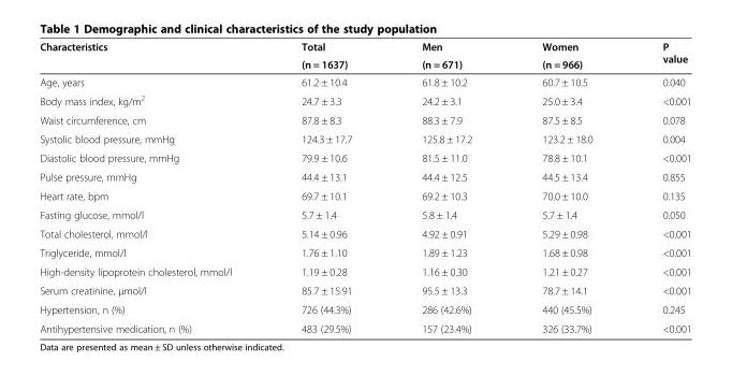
<table><thead><tr><td rowspan="2">Characteristics</td><td rowspan="2">Total (n = 1637)</td><td rowspan="2">Men (n = 671)</td><td rowspan="2">Women (n = 966)</td><td rowspan="2">P value</td></tr><tr></tr></thead><tbody><tr><td>Age, years</td><td>61.2 ± 10.4</td><td>61.8 ± 10.2</td><td>60.7 ± 10.5</td><td>0.040</td></tr><tr><td>Body mass index, kg/m<sup>2</sup></td><td>24.7 ± 3.3</td><td>24.2 ± 3.1</td><td>25.0 ± 3.4</td><td>&lt;0.001</td></tr><tr><td>Waist circumference, cm</td><td>87.8 ± 8.3</td><td>88.3 ± 7.9</td><td>87.5 ± 8.5</td><td>0.078</td></tr><tr><td>Systolic blood pressure, mmHg</td><td>124.3 ± 17.7</td><td>125.8 ± 17.2</td><td>123.2 ± 18.0</td><td>0.004</td></tr><tr><td>Diastolic blood pressure, mmHg</td><td>79.9 ± 10.6</td><td>81.5 ± 11.0</td><td>78.8 ± 10.1</td><td>&lt;0.001</td></tr><tr><td>Pulse pressure, mmHg</td><td>44.4 ± 13.1</td><td>44.4 ± 12.5</td><td>44.5 ± 13.4</td><td>0.855</td></tr><tr><td>Heart rate, bpm</td><td>69.7 ± 10.1</td><td>69.2 ± 10.3</td><td>70.0 ± 10.0</td><td>0.135</td></tr><tr><td>Fasting glucose, mmol/l</td><td>5.7 ± 1.4</td><td>5.8 ± 1.4</td><td>5.7 ± 1.4</td><td>0.050</td></tr><tr><td>Total cholesterol, mmol/l</td><td>5.14 ± 0.96</td><td>4.92 ± 0.91</td><td>5.29 ± 0.98</td><td>&lt;0.001</td></tr><tr><td>Triglyceride, mmol/l</td><td>1.76 ± 1.10</td><td>1.89 ± 1.23</td><td>1.68 ± 0.98</td><td>&lt;0.001</td></tr><tr><td>High-density lipoprotein cholesterol, mmol/l</td><td>1.19 ± 0.28</td><td>1.16 ± 0.30</td><td>1.21 ± 0.27</td><td>&lt;0.001</td></tr><tr><td>Serum creatinine, μmol/l</td><td>85.7 ± 15.91</td><td>95.5 ± 13.3</td><td>78.7 ± 14.1</td><td>&lt;0.001</td></tr><tr><td>Hypertension, n (%)</td><td>726 (44.3%)</td><td>286 (42.6%)</td><td>440 (45.5%)</td><td>0.245</td></tr><tr><td>Antihypertensive medication, n (%)</td><td>483 (29.5%)</td><td>157 (23.4%)</td><td>326 (33.7%)</td><td>&lt;0.001</td></tr></tbody></table>